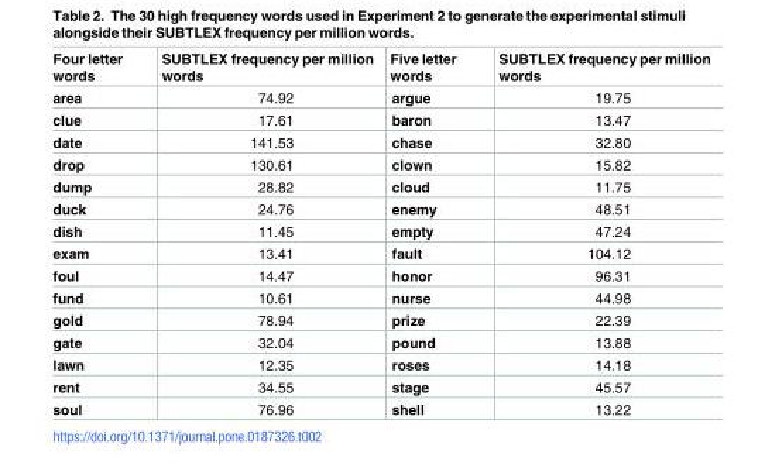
<table><thead><tr><td>Four letter words</td><td>SUBTLEX frequency per million words</td><td>Five letter words</td><td>SUBTLEX frequency per million words</td></tr></thead><tbody><tr><td>area</td><td>74.92</td><td>argue</td><td>19.75</td></tr><tr><td>clue</td><td>17.61</td><td>baron</td><td>13.47</td></tr><tr><td>date</td><td>141.53</td><td>chase</td><td>32.80</td></tr><tr><td>drop</td><td>130.61</td><td>clown</td><td>15.82</td></tr><tr><td>dump</td><td>28.82</td><td>cloud</td><td>11.75</td></tr><tr><td>duck</td><td>24.76</td><td>enemy</td><td>48.51</td></tr><tr><td>dish</td><td>11.45</td><td>empty</td><td>47.24</td></tr><tr><td>exam</td><td>13.41</td><td>fault</td><td>104.12</td></tr><tr><td>foul</td><td>14.47</td><td>honor</td><td>96.31</td></tr><tr><td>fund</td><td>10.61</td><td>nurse</td><td>44.98</td></tr><tr><td>gold</td><td>78.94</td><td>prize</td><td>22.39</td></tr><tr><td>gate</td><td>32.04</td><td>pound</td><td>13.88</td></tr><tr><td>lawn</td><td>12.35</td><td>roses</td><td>14.18</td></tr><tr><td>rent</td><td>34.55</td><td>stage</td><td>45.57</td></tr><tr><td>soul</td><td>76.96</td><td>shell</td><td>13.22</td></tr></tbody></table>